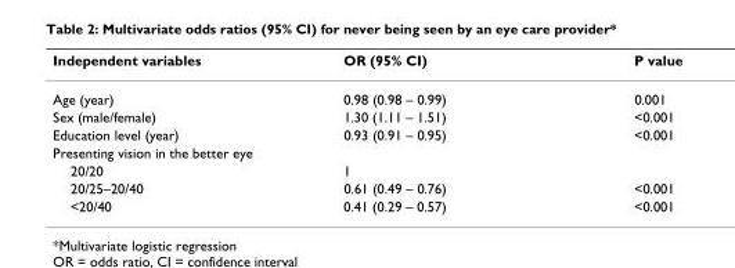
<table><thead><tr><td>Independent variables</td><td>OR (95% CI)</td><td>P value</td></tr></thead><tbody><tr><td>Age (year)</td><td>0.98 (0.98 – 0.99)</td><td>0.001</td></tr><tr><td>Sex (male/female)</td><td>1.30 (1.11 – 1.51)</td><td>&lt;0.001</td></tr><tr><td>Education level (year)</td><td>0.93 (0.91 – 0.95)</td><td>&lt;0.001</td></tr><tr><td colspan="3">Presenting vision in the better eye</td></tr><tr><td>20/20</td><td>1</td><td></td></tr><tr><td>20/25–20/40</td><td>0.61 (0.49 – 0.76)</td><td>&lt;0.001</td></tr><tr><td>&lt;20/40</td><td>0.41 (0.29 – 0.57)</td><td>&lt;0.001</td></tr></tbody></table>